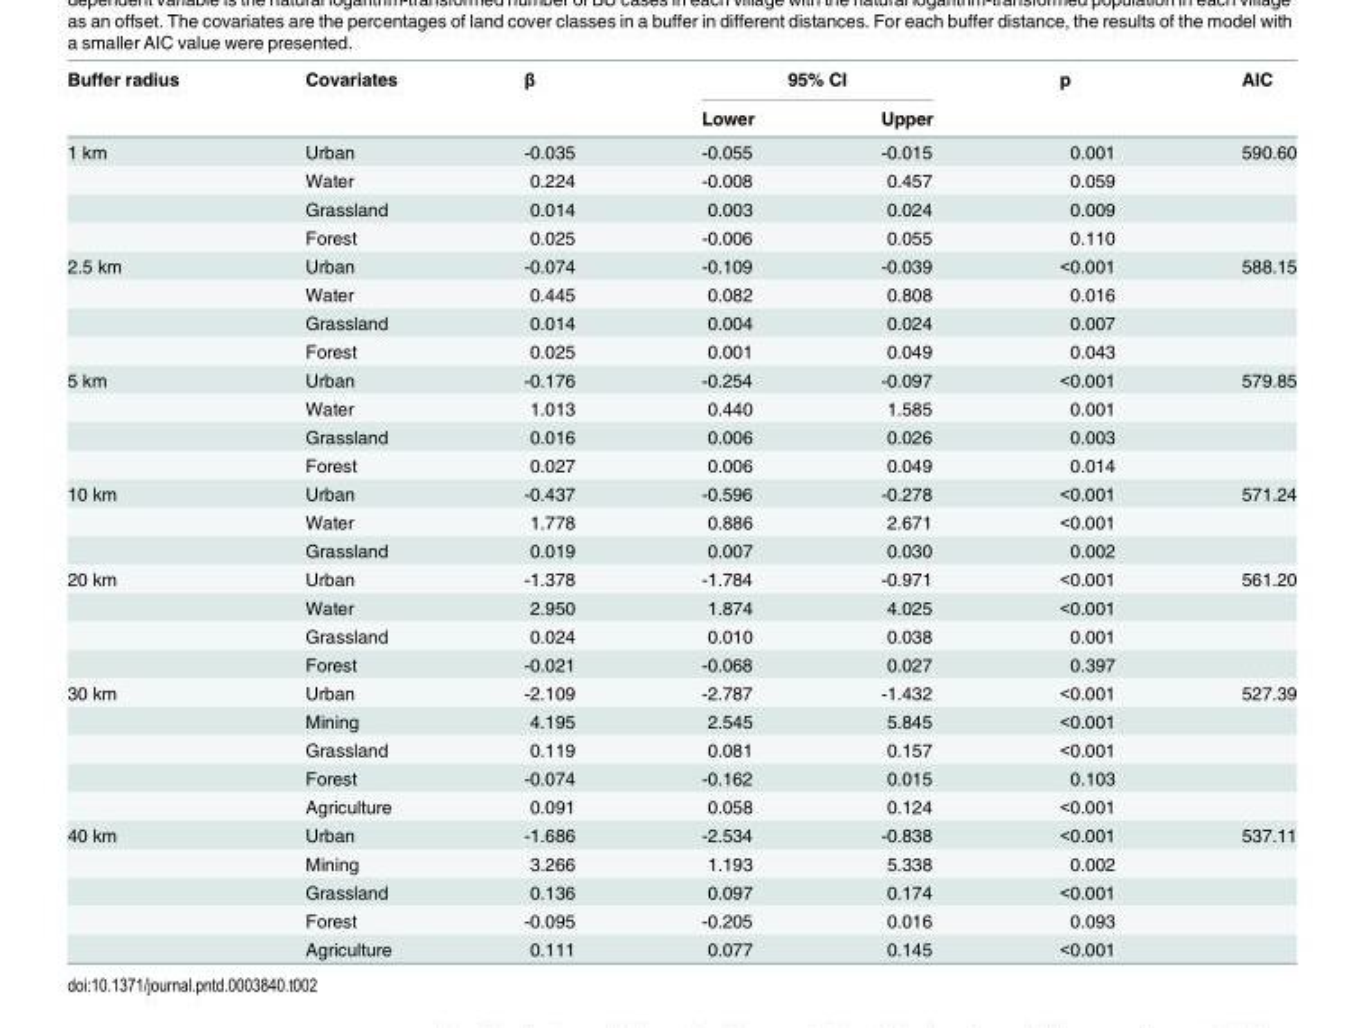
<table><thead><tr><td rowspan="2">Buffer radius</td><td rowspan="2">Covariates</td><td rowspan="2">β</td><td colspan="2">95% CI</td><td rowspan="2">p</td><td rowspan="2">AIC</td></tr><tr><td>Lower</td><td>Upper</td></tr></thead><tbody><tr><td rowspan="4">1 km</td><td>Urban</td><td>-0.035</td><td>-0.055</td><td>-0.015</td><td>0.001</td><td>590.60</td></tr><tr><td>Water</td><td>0.224</td><td>-0.008</td><td>0.457</td><td>0.059</td><td></td></tr><tr><td>Grassland</td><td>0.014</td><td>0.003</td><td>0.024</td><td>0.009</td><td></td></tr><tr><td>Forest</td><td>0.025</td><td>-0.006</td><td>0.055</td><td>0.110</td><td></td></tr><tr><td rowspan="4">2.5 km</td><td>Urban</td><td>-0.074</td><td>-0.109</td><td>-0.039</td><td>&lt;0.001</td><td>588.15</td></tr><tr><td>Water</td><td>0.445</td><td>0.082</td><td>0.808</td><td>0.016</td><td></td></tr><tr><td>Grassland</td><td>0.014</td><td>0.004</td><td>0.024</td><td>0.007</td><td></td></tr><tr><td>Forest</td><td>0.025</td><td>0.001</td><td>0.049</td><td>0.043</td><td></td></tr><tr><td rowspan="4">5 km</td><td>Urban</td><td>-0.176</td><td>-0.254</td><td>-0.097</td><td>&lt;0.001</td><td>579.85</td></tr><tr><td>Water</td><td>1.013</td><td>0.440</td><td>1.585</td><td>0.001</td><td></td></tr><tr><td>Grassland</td><td>0.016</td><td>0.006</td><td>0.026</td><td>0.003</td><td></td></tr><tr><td>Forest</td><td>0.027</td><td>0.006</td><td>0.049</td><td>0.014</td><td></td></tr><tr><td rowspan="3">10 km</td><td>Urban</td><td>-0.437</td><td>-0.596</td><td>-0.278</td><td>&lt;0.001</td><td>571.24</td></tr><tr><td>Water</td><td>1.778</td><td>0.886</td><td>2.671</td><td>&lt;0.001</td><td></td></tr><tr><td>Grassland</td><td>0.019</td><td>0.007</td><td>0.030</td><td>0.002</td><td></td></tr><tr><td rowspan="4">20 km</td><td>Urban</td><td>-1.378</td><td>-1.784</td><td>-0.971</td><td>&lt;0.001</td><td>561.20</td></tr><tr><td>Water</td><td>2.950</td><td>1.874</td><td>4.025</td><td>&lt;0.001</td><td></td></tr><tr><td>Grassland</td><td>0.024</td><td>0.010</td><td>0.038</td><td>0.001</td><td></td></tr><tr><td>Forest</td><td>-0.021</td><td>-0.068</td><td>0.027</td><td>0.397</td><td></td></tr><tr><td rowspan="5">30 km</td><td>Urban</td><td>-2.109</td><td>-2.787</td><td>-1.432</td><td>&lt;0.001</td><td>527.39</td></tr><tr><td>Mining</td><td>4.195</td><td>2.545</td><td>5.845</td><td>&lt;0.001</td><td></td></tr><tr><td>Grassland</td><td>0.119</td><td>0.081</td><td>0.157</td><td>&lt;0.001</td><td></td></tr><tr><td>Forest</td><td>-0.074</td><td>-0.162</td><td>0.015</td><td>0.103</td><td></td></tr><tr><td>Agriculture</td><td>0.091</td><td>0.058</td><td>0.124</td><td>&lt;0.001</td><td></td></tr><tr><td rowspan="5">40 km</td><td>Urban</td><td>-1.686</td><td>-2.534</td><td>-0.838</td><td>&lt;0.001</td><td>537.11</td></tr><tr><td>Mining</td><td>3.266</td><td>1.193</td><td>5.338</td><td>0.002</td><td></td></tr><tr><td>Grassland</td><td>0.136</td><td>0.097</td><td>0.174</td><td>&lt;0.001</td><td></td></tr><tr><td>Forest</td><td>-0.095</td><td>-0.205</td><td>0.016</td><td>0.093</td><td></td></tr><tr><td>Agriculture</td><td>0.111</td><td>0.077</td><td>0.145</td><td>&lt;0.001</td><td></td></tr></tbody></table>